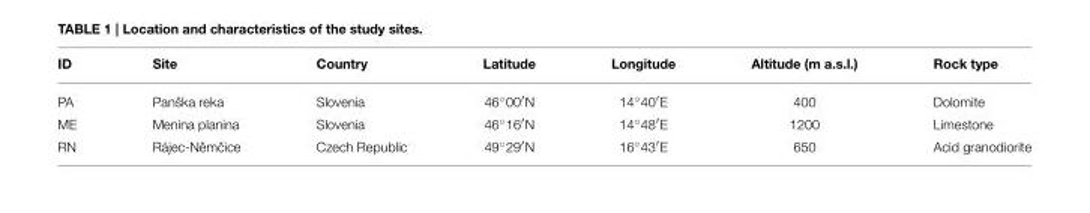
<table><thead><tr><td>ID</td><td>Site</td><td>Country</td><td>Latitude</td><td>Longitude</td><td>Altitude (m a.s.l.)</td><td>Rock type</td></tr></thead><tbody><tr><td>PA</td><td>Panška reka</td><td>Slovenia</td><td>46◦00′N</td><td>14◦40′E</td><td>400</td><td>Dolomite</td></tr><tr><td>ME</td><td>Menina planina</td><td>Slovenia</td><td>46◦16′N</td><td>14◦48′E</td><td>1200</td><td>Limestone</td></tr><tr><td>RN</td><td>Rájec-N ˇem ˇcice</td><td>Czech Republic</td><td>49◦29′N</td><td>16◦43′E</td><td>650</td><td>Acid granodiorite</td></tr></tbody></table>